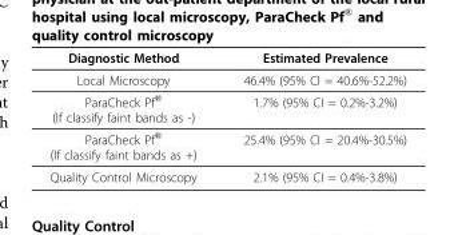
<table><thead><tr><td>Diagnostic Method</td><td>Estimated Prevalence</td></tr></thead><tbody><tr><td>Local Microscopy</td><td>46.4% (95% CI = 40.6%-52.2%)</td></tr><tr><td>ParaCheck Pf<sup>®</sup> (If classify faint bands as -)</td><td>1.7% (95% CI = 0.2%-3.2%)</td></tr><tr><td>ParaCheck Pf<sup>®</sup> (If classify faint bands as +)</td><td>25.4% (95% CI = 20.4%-30.5%)</td></tr><tr><td>Quality Control Microscopy</td><td>2.1% (95% CI = 0.4%-3.8%)</td></tr></tbody></table>